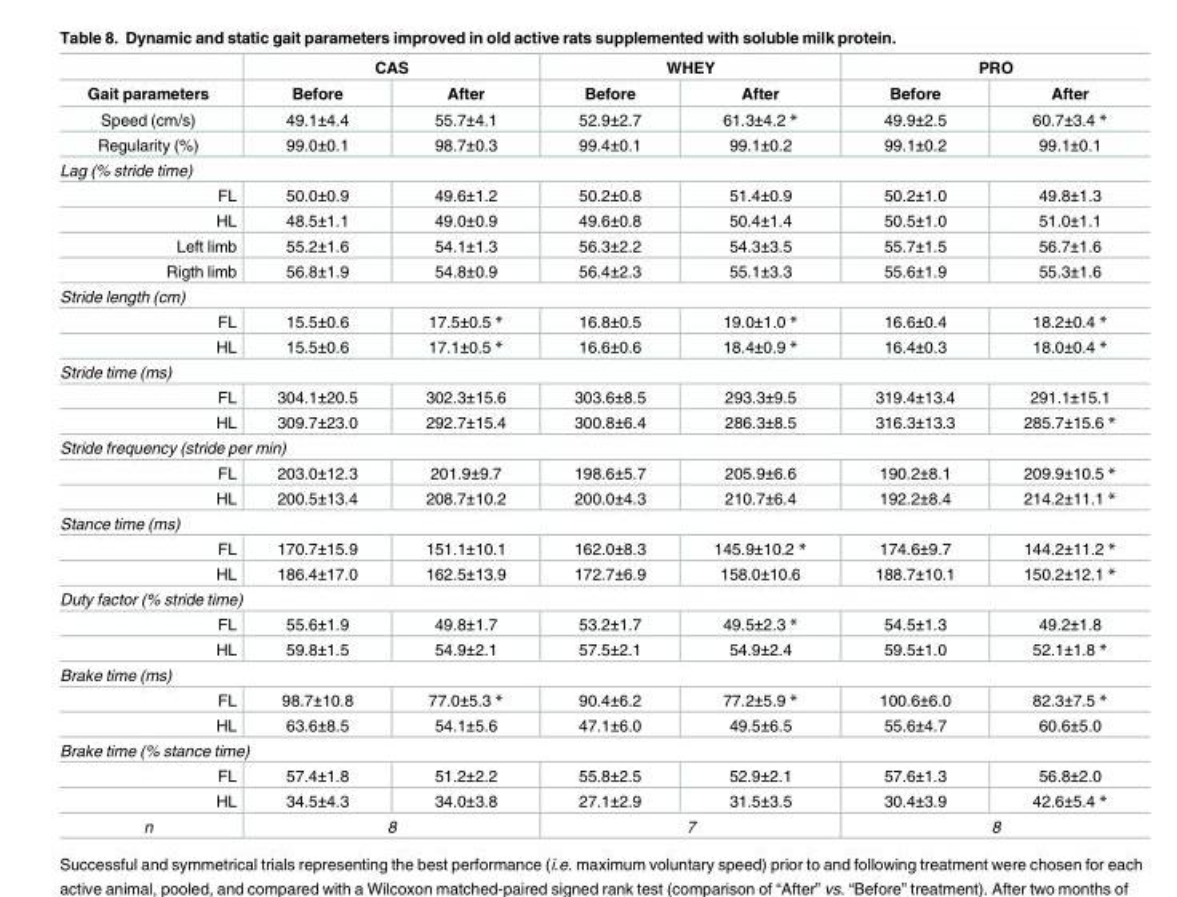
<table><thead><tr><td rowspan="2">Gait parameters</td><td colspan="2">CAS</td><td colspan="2">WHEY</td><td colspan="2">PRO</td></tr><tr><td>Before</td><td>After</td><td>Before</td><td>After</td><td>Before</td><td>After</td></tr></thead><tbody><tr><td>Speed (cm/s)</td><td>49.1±4.4</td><td>55.7±4.1</td><td>52.9±2.7</td><td>61.3±4.2 *</td><td>49.9±2.5</td><td>60.7±3.4 *</td></tr><tr><td>Regularity (%)</td><td>99.0±0.1</td><td>98.7±0.3</td><td>99.4±0.1</td><td>99.1±0.2</td><td>99.1±0.2</td><td>99.1±0.1</td></tr><tr><td colspan="7">Lag (% stride time)</td></tr><tr><td>FL</td><td>50.0±0.9</td><td>49.6±1.2</td><td>50.2±0.8</td><td>51.4±0.9</td><td>50.2±1.0</td><td>49.8±1.3</td></tr><tr><td>HL</td><td>48.5±1.1</td><td>49.0±0.9</td><td>49.6±0.8</td><td>50.4±1.4</td><td>50.5±1.0</td><td>51.0±1.1</td></tr><tr><td>Left limb</td><td>55.2±1.6</td><td>54.1±1.3</td><td>56.3±2.2</td><td>54.3±3.5</td><td>55.7±1.5</td><td>56.7±1.6</td></tr><tr><td>Rigth limb</td><td>56.8±1.9</td><td>54.8±0.9</td><td>56.4±2.3</td><td>55.1±3.3</td><td>55.6±1.9</td><td>55.3±1.6</td></tr><tr><td colspan="7">Stride length (cm)</td></tr><tr><td>FL</td><td>15.5±0.6</td><td>17.5±0.5 *</td><td>16.8±0.5</td><td>19.0±1.0 *</td><td>16.6±0.4</td><td>18.2±0.4 *</td></tr><tr><td>HL</td><td>15.5±0.6</td><td>17.1±0.5 *</td><td>16.6±0.6</td><td>18.4±0.9 *</td><td>16.4±0.3</td><td>18.0±0.4 *</td></tr><tr><td colspan="7">Stride time (ms)</td></tr><tr><td>FL</td><td>304.1±20.5</td><td>302.3±15.6</td><td>303.6±8.5</td><td>293.3±9.5</td><td>319.4±13.4</td><td>291.1±15.1</td></tr><tr><td>HL</td><td>309.7±23.0</td><td>292.7±15.4</td><td>300.8±6.4</td><td>286.3±8.5</td><td>316.3±13.3</td><td>285.7±15.6 *</td></tr><tr><td colspan="7">Stride frequency (stride per min)</td></tr><tr><td>FL</td><td>203.0±12.3</td><td>201.9±9.7</td><td>198.6±5.7</td><td>205.9±6.6</td><td>190.2±8.1</td><td>209.9±10.5 *</td></tr><tr><td>HL</td><td>200.5±13.4</td><td>208.7±10.2</td><td>200.0±4.3</td><td>210.7±6.4</td><td>192.2±8.4</td><td>214.2±11.1 *</td></tr><tr><td colspan="7">Stance time (ms)</td></tr><tr><td>FL</td><td>170.7±15.9</td><td>151.1±10.1</td><td>162.0±8.3</td><td>145.9±10.2 *</td><td>174.6±9.7</td><td>144.2±11.2 *</td></tr><tr><td>HL</td><td>186.4±17.0</td><td>162.5±13.9</td><td>172.7±6.9</td><td>158.0±10.6</td><td>188.7±10.1</td><td>150.2±12.1 *</td></tr><tr><td colspan="7">Duty factor (% stride time)</td></tr><tr><td>FL</td><td>55.6±1.9</td><td>49.8±1.7</td><td>53.2±1.7</td><td>49.5±2.3 *</td><td>54.5±1.3</td><td>49.2±1.8</td></tr><tr><td>HL</td><td>59.8±1.5</td><td>54.9±2.1</td><td>57.5±2.1</td><td>54.9±2.4</td><td>59.5±1.0</td><td>52.1±1.8 *</td></tr><tr><td colspan="7">Brake time (ms)</td></tr><tr><td>FL</td><td>98.7±10.8</td><td>77.0±5.3 *</td><td>90.4±6.2</td><td>77.2±5.9 *</td><td>100.6±6.0</td><td>82.3±7.5 *</td></tr><tr><td>HL</td><td>63.6±8.5</td><td>54.1±5.6</td><td>47.1±6.0</td><td>49.5±6.5</td><td>55.6±4.7</td><td>60.6±5.0</td></tr><tr><td colspan="7">Brake time (% stance time)</td></tr><tr><td>FL</td><td>57.4±1.8</td><td>51.2±2.2</td><td>55.8±2.5</td><td>52.9±2.1</td><td>57.6±1.3</td><td>56.8±2.0</td></tr><tr><td>HL</td><td>34.5±4.3</td><td>34.0±3.8</td><td>27.1±2.9</td><td>31.5±3.5</td><td>30.4±3.9</td><td>42.6±5.4 *</td></tr><tr><td>n</td><td colspan="2">8</td><td colspan="2">7</td><td colspan="2">8</td></tr></tbody></table>